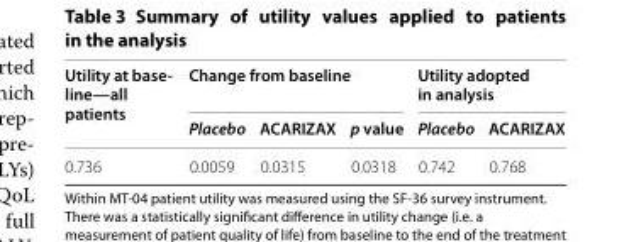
<table><thead><tr><td rowspan="2">Utility at base- line—all patients</td><td colspan="3">Change from baseline</td><td colspan="2">Utility adopted in analysis</td></tr><tr><td>Placebo</td><td>ACARIZAX</td><td>p value</td><td>Placebo</td><td>ACARIZAX</td></tr></thead><tbody><tr><td>0.736</td><td>0.0059</td><td>0.0315</td><td>0.0318</td><td>0.742</td><td>0.768</td></tr></tbody></table>